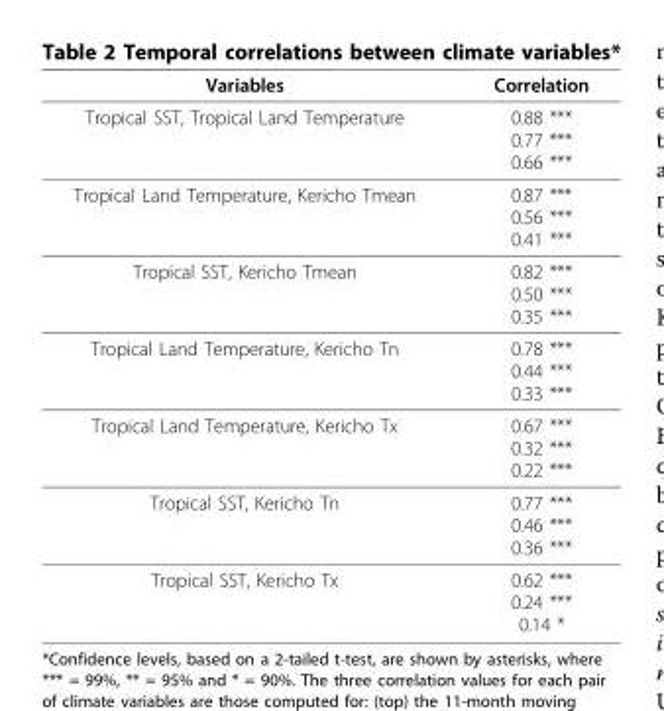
<table><thead><tr><td>Variables</td><td>Correlation</td></tr></thead><tbody><tr><td>Tropical SST, Tropical Land Temperature</td><td>0.88 *** 0.77 *** 0.66 ***</td></tr><tr><td>Tropical Land Temperature, Kericho Tmean</td><td>0.87 *** 0.56 *** 0.41 ***</td></tr><tr><td>Tropical SST, Kericho Tmean</td><td>0.82 *** 0.50 *** 0.35 ***</td></tr><tr><td>Tropical Land Temperature, Kericho Tn</td><td>0.78 *** 0.44 *** 0.33 ***</td></tr><tr><td>Tropical Land Temperature, Kericho Tx</td><td>0.67 *** 0.32 *** 0.22 ***</td></tr><tr><td>Tropical SST, Kericho Tn</td><td>0.77 *** 0.46 *** 0.36 ***</td></tr><tr><td>Tropical SST, Kericho Tx</td><td>0.62 *** 0.24 *** 0.14 *</td></tr></tbody></table>